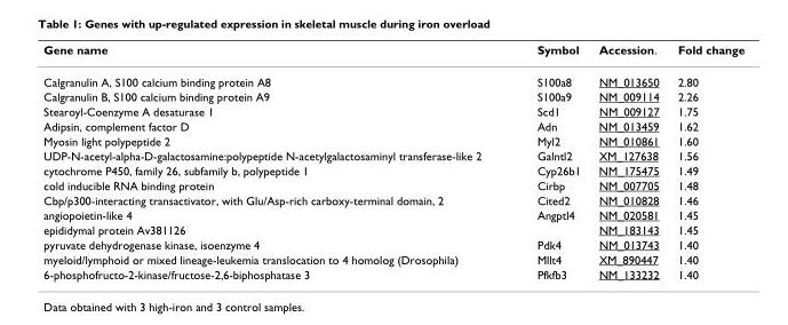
<table><thead><tr><td>Gene name</td><td>Symbol</td><td>Accession.</td><td>Fold change</td></tr></thead><tbody><tr><td>Calgranulin A, S100 calcium binding protein A8</td><td>S100a8</td><td>NM_013650</td><td>2.80</td></tr><tr><td>Calgranulin B, S100 calcium binding protein A9</td><td>S100a9</td><td>NM_009114</td><td>2.26</td></tr><tr><td>Stearoyl-Coenzyme A desaturase 1</td><td>Scd1</td><td>NM_009127</td><td>1.75</td></tr><tr><td>Adipsin, complement factor D</td><td>Adn</td><td>NM_013459</td><td>1.62</td></tr><tr><td>Myosin light polypeptide 2</td><td>Myl2</td><td>NM_010861</td><td>1.60</td></tr><tr><td>UDP-N-acetyl-alpha-D-galactosamine:polypeptide N-acetylgalactosaminyl transferase-like 2</td><td>Galntl2</td><td>XM_127638</td><td>1.56</td></tr><tr><td>cytochrome P450, family 26, subfamily b, polypeptide 1</td><td>Cyp26b1</td><td>NM_175475</td><td>1.49</td></tr><tr><td>cold inducible RNA binding protein</td><td>Cirbp</td><td>NM_007705</td><td>1.48</td></tr><tr><td>Cbp/p300-interacting transactivator, with Glu/Asp-rich carboxy-terminal domain, 2</td><td>Cited2</td><td>NM_010828</td><td>1.46</td></tr><tr><td>angiopoietin-like 4</td><td>Angptl4</td><td>NM_020581</td><td>1.45</td></tr><tr><td>epididymal protein Av381126</td><td></td><td>NM_183143</td><td>1.45</td></tr><tr><td>pyruvate dehydrogenase kinase, isoenzyme 4</td><td>Pdk4</td><td>NM_013743</td><td>1.40</td></tr><tr><td>myeloid/lymphoid or mixed lineage-leukemia translocation to 4 homolog (Drosophila)</td><td>Mllt4</td><td>XM_890447</td><td>1.40</td></tr><tr><td>6-phosphofructo-2-kinase/fructose-2,6-biphosphatase 3</td><td>Pfkfb3</td><td>NM_133232</td><td>1.40</td></tr></tbody></table>